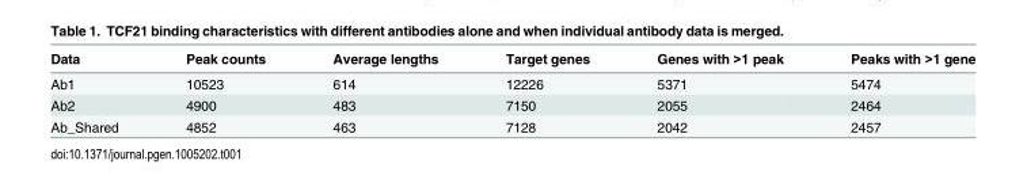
<table><thead><tr><td>Data</td><td>Peak counts</td><td>Average lengths</td><td>Target genes</td><td>Genes with &gt;1 peak</td><td>Peaks with &gt;1 gene</td></tr></thead><tbody><tr><td>Ab1</td><td>10523</td><td>614</td><td>12226</td><td>5371</td><td>5474</td></tr><tr><td>Ab2</td><td>4900</td><td>483</td><td>7150</td><td>2055</td><td>2464</td></tr><tr><td>Ab_Shared</td><td>4852</td><td>463</td><td>7128</td><td>2042</td><td>2457</td></tr></tbody></table>